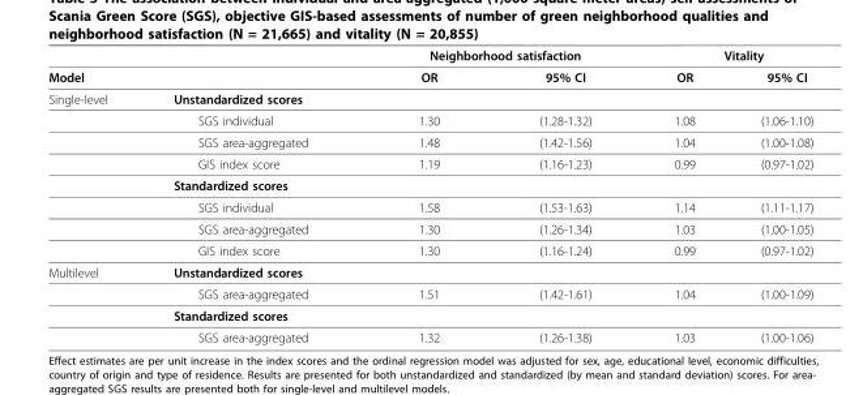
<table><thead><tr><td rowspan="2">Model</td><td rowspan="2"></td><td colspan="2">Neighborhood satisfaction</td><td colspan="2">Vitality</td></tr><tr><td>OR</td><td>95% CI</td><td>OR</td><td>95% CI</td></tr></thead><tbody><tr><td rowspan="8">Single-level</td><td>Unstandardized scores</td><td></td><td></td><td></td><td></td></tr><tr><td>SGS individual</td><td>1.30</td><td>(1.28-1.32)</td><td>1.08</td><td>(1.06-1.10)</td></tr><tr><td>SGS area-aggregated</td><td>1.48</td><td>(1.42-1.56)</td><td>1.04</td><td>(1.00-1.08)</td></tr><tr><td>GIS index score</td><td>1.19</td><td>(1.16-1.23)</td><td>0.99</td><td>(0.97-1.02)</td></tr><tr><td>Standardized scores</td><td></td><td></td><td></td><td></td></tr><tr><td>SGS individual</td><td>1.58</td><td>(1.53-1.63)</td><td>1.14</td><td>(1.11-1.17)</td></tr><tr><td>SGS area-aggregated</td><td>1.30</td><td>(1.26-1.34)</td><td>1.03</td><td>(1.00-1.05)</td></tr><tr><td>GIS index score</td><td>1.30</td><td>(1.16-1.24)</td><td>0.99</td><td>(0.97-1.02)</td></tr><tr><td rowspan="4">Multilevel</td><td>Unstandardized scores</td><td></td><td></td><td></td><td></td></tr><tr><td>SGS area-aggregated</td><td>1.51</td><td>(1.42-1.61)</td><td>1.04</td><td>(1.00-1.09)</td></tr><tr><td>Standardized scores</td><td></td><td></td><td></td><td></td></tr><tr><td>SGS area-aggregated</td><td>1.32</td><td>(1.26-1.38)</td><td>1.03</td><td>(1.00-1.06)</td></tr></tbody></table>